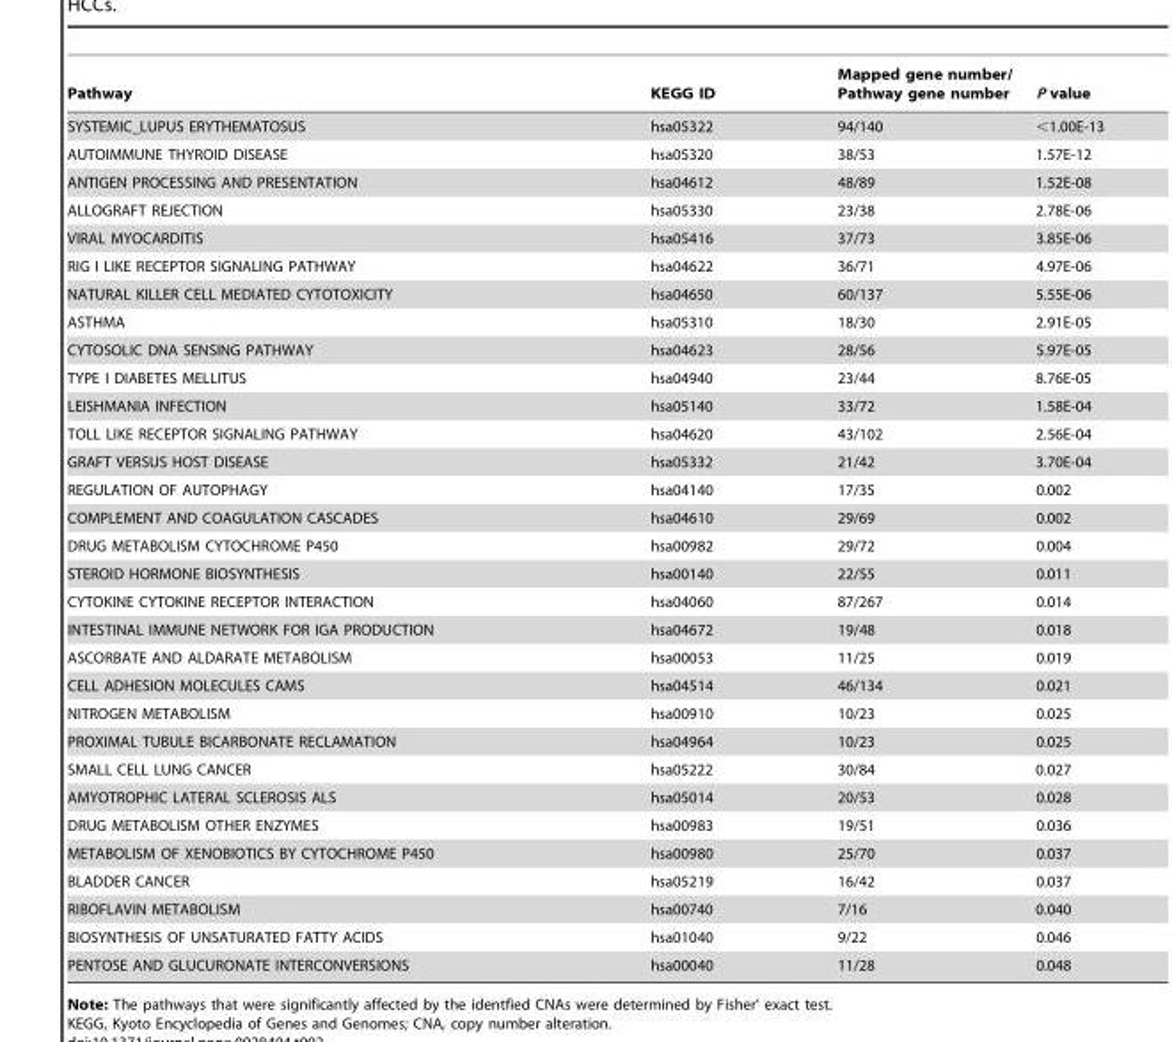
<table><thead><tr><td>Pathway</td><td>KEGG ID</td><td>Mapped gene number/ Pathway gene number</td><td>P value</td></tr></thead><tbody><tr><td>SYSTEMIC_LUPUS ERYTHEMATOSUS</td><td>hsa05322</td><td>94/140</td><td>&lt;1.00E-13</td></tr><tr><td>AUTOIMMUNE THYROID DISEASE</td><td>hsa05320</td><td>38/53</td><td>1.57E-12</td></tr><tr><td>ANTIGEN PROCESSING AND PRESENTATION</td><td>hsa04612</td><td>48/89</td><td>1.52E-08</td></tr><tr><td>ALLOGRAFT REJECTION</td><td>hsa05330</td><td>23/38</td><td>2.78E-06</td></tr><tr><td>VIRAL MYOCARDITIS</td><td>hsa05416</td><td>37/73</td><td>3.85E-06</td></tr><tr><td>RIG I LIKE RECEPTOR SIGNALING PATHWAY</td><td>hsa04622</td><td>36/71</td><td>4.97E-06</td></tr><tr><td>NATURAL KILLER CELL MEDIATED CYTOTOXICITY</td><td>hsa04650</td><td>60/137</td><td>5.55E-06</td></tr><tr><td>ASTHMA</td><td>hsa05310</td><td>18/30</td><td>2.91E-05</td></tr><tr><td>CYTOSOLIC DNA SENSING PATHWAY</td><td>hsa04623</td><td>28/56</td><td>5.97E-05</td></tr><tr><td>TYPE I DIABETES MELLITUS</td><td>hsa04940</td><td>23/44</td><td>8.76E-05</td></tr><tr><td>LEISHMANIA INFECTION</td><td>hsa05140</td><td>33/72</td><td>1.58E-04</td></tr><tr><td>TOLL LIKE RECEPTOR SIGNALING PATHWAY</td><td>hsa04620</td><td>43/102</td><td>2.56E-04</td></tr><tr><td>GRAFT VERSUS HOST DISEASE</td><td>hsa05332</td><td>21/42</td><td>3.70E-04</td></tr><tr><td>REGULATION OF AUTOPHAGY</td><td>hsa04140</td><td>17/35</td><td>0.002</td></tr><tr><td>COMPLEMENT AND COAGULATION CASCADES</td><td>hsa04610</td><td>29/69</td><td>0.002</td></tr><tr><td>DRUG METABOLISM CYTOCHROME P450</td><td>hsa00982</td><td>29/72</td><td>0.004</td></tr><tr><td>STEROID HORMONE BIOSYNTHESIS</td><td>hsa00140</td><td>22/55</td><td>0.011</td></tr><tr><td>CYTOKINE CYTOKINE RECEPTOR INTERACTION</td><td>hsa04060</td><td>87/267</td><td>0.014</td></tr><tr><td>INTESTINAL IMMUNE NETWORK FOR IGA PRODUCTION</td><td>hsa04672</td><td>19/48</td><td>0.018</td></tr><tr><td>ASCORBATE AND ALDARATE METABOLISM</td><td>hsa00053</td><td>11/25</td><td>0.019</td></tr><tr><td>CELL ADHESION MOLECULES CAMS</td><td>hsa04514</td><td>46/134</td><td>0.021</td></tr><tr><td>NITROGEN METABOLISM</td><td>hsa00910</td><td>10/23</td><td>0.025</td></tr><tr><td>PROXIMAL TUBULE BICARBONATE RECLAMATION</td><td>hsa04964</td><td>10/23</td><td>0.025</td></tr><tr><td>SMALL CELL LUNG CANCER</td><td>hsa05222</td><td>30/84</td><td>0.027</td></tr><tr><td>AMYOTROPHIC LATERAL SCLEROSIS ALS</td><td>hsa05014</td><td>20/53</td><td>0.028</td></tr><tr><td>DRUG METABOLISM OTHER ENZYMES</td><td>hsa00983</td><td>19/51</td><td>0.036</td></tr><tr><td>METABOLISM OF XENOBIOTICS BY CYTOCHROME P450</td><td>hsa00980</td><td>25/70</td><td>0.037</td></tr><tr><td>BLADDER CANCER</td><td>hsa05219</td><td>16/42</td><td>0.037</td></tr><tr><td>RIBOFLAVIN METABOLISM</td><td>hsa00740</td><td>7/16</td><td>0.040</td></tr><tr><td>BIOSYNTHESIS OF UNSATURATED FATTY ACIDS</td><td>hsa01040</td><td>9/22</td><td>0.046</td></tr><tr><td>PENTOSE AND GLUCURONATE INTERCONVERSIONS</td><td>hsa00040</td><td>11/28</td><td>0.048</td></tr></tbody></table>